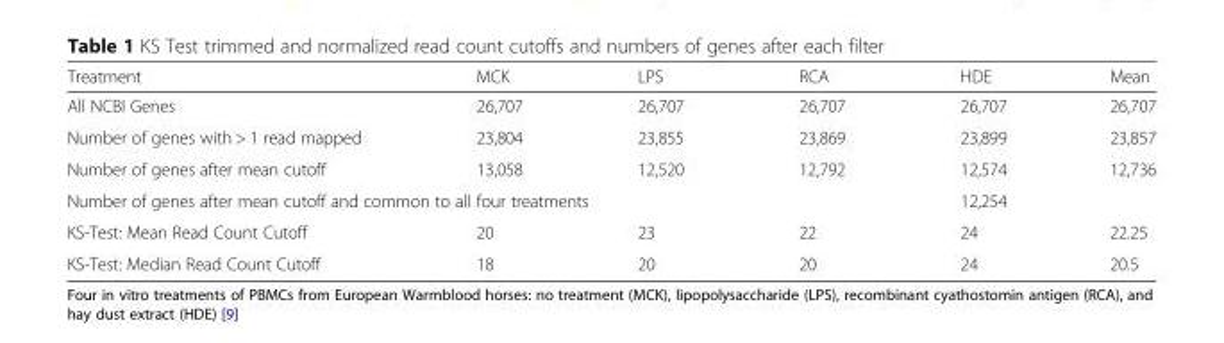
<table><thead><tr><td>Treatment</td><td>MCK</td><td>LPS</td><td>RCA</td><td>HDE</td><td>Mean</td></tr></thead><tbody><tr><td>All NCBI Genes</td><td>26,707</td><td>26,707</td><td>26,707</td><td>26,707</td><td>26,707</td></tr><tr><td>Number of genes with &gt; 1 read mapped</td><td>23,804</td><td>23,855</td><td>23,869</td><td>23,899</td><td>23,857</td></tr><tr><td>Number of genes after mean cutoff</td><td>13,058</td><td>12,520</td><td>12,792</td><td>12,574</td><td>12,736</td></tr><tr><td colspan="4">Number of genes after mean cutoff and common to all four treatments</td><td colspan="2">12,254</td></tr><tr><td>KS-Test: Mean Read Count Cutoff</td><td>20</td><td>23</td><td>22</td><td>24</td><td>22.25</td></tr><tr><td>KS-Test: Median Read Count Cutoff</td><td>18</td><td>20</td><td>20</td><td>24</td><td>20.5</td></tr></tbody></table>